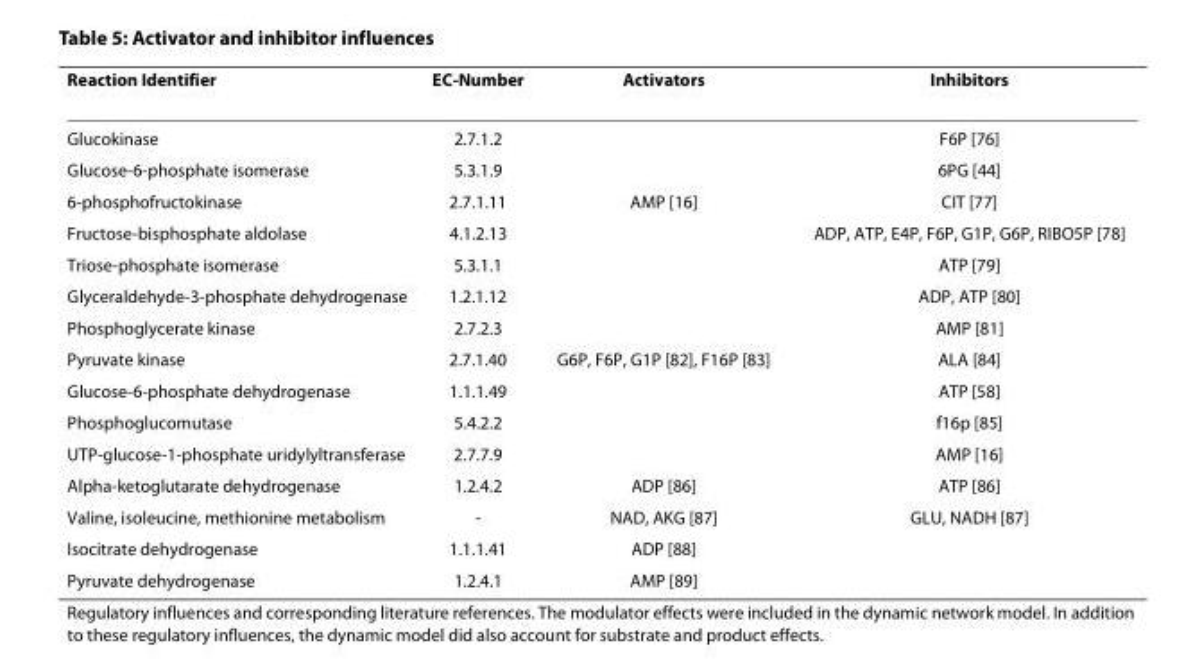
<table><thead><tr><td>Reaction Identifier</td><td>EC-Number</td><td>Activators</td><td>Inhibitors</td></tr></thead><tbody><tr><td>Glucokinase</td><td>2.7.1.2</td><td></td><td>F6P [76]</td></tr><tr><td>Glucose-6-phosphate isomerase</td><td>5.3.1.9</td><td></td><td>6PG [44]</td></tr><tr><td>6-phosphofructokinase</td><td>2.7.1.11</td><td>AMP [16]</td><td>CIT [77]</td></tr><tr><td>Fructose-bisphosphate aldolase</td><td>4.1.2.13</td><td></td><td>ADP, ATP, E4P, F6P, G1P, G6P, RIBO5P [78]</td></tr><tr><td>Triose-phosphate isomerase</td><td>5.3.1.1</td><td></td><td>ATP [79]</td></tr><tr><td>Glyceraldehyde-3-phosphate dehydrogenase</td><td>1.2.1.12</td><td></td><td>ADP, ATP [80]</td></tr><tr><td>Phosphoglycerate kinase</td><td>2.7.2.3</td><td></td><td>AMP [81]</td></tr><tr><td>Pyruvate kinase</td><td>2.7.1.40</td><td>G6P, F6P, G1P [82], F16P [83]</td><td>ALA [84]</td></tr><tr><td>Glucose-6-phosphate dehydrogenase</td><td>1.1.1.49</td><td></td><td>ATP [58]</td></tr><tr><td>Phosphoglucomutase</td><td>5.4.2.2</td><td></td><td>f16p [85]</td></tr><tr><td>UTP-glucose-1-phosphate uridylyltransferase</td><td>2.7.7.9</td><td></td><td>AMP [16]</td></tr><tr><td>Alpha-ketoglutarate dehydrogenase</td><td>1.2.4.2</td><td>ADP [86]</td><td>ATP [86]</td></tr><tr><td>Valine, isoleucine, methionine metabolism</td><td>-</td><td>NAD, AKG [87]</td><td>GLU, NADH [87]</td></tr><tr><td>Isocitrate dehydrogenase</td><td>1.1.1.41</td><td>ADP [88]</td><td></td></tr><tr><td>Pyruvate dehydrogenase</td><td>1.2.4.1</td><td>AMP [89]</td><td></td></tr></tbody></table>